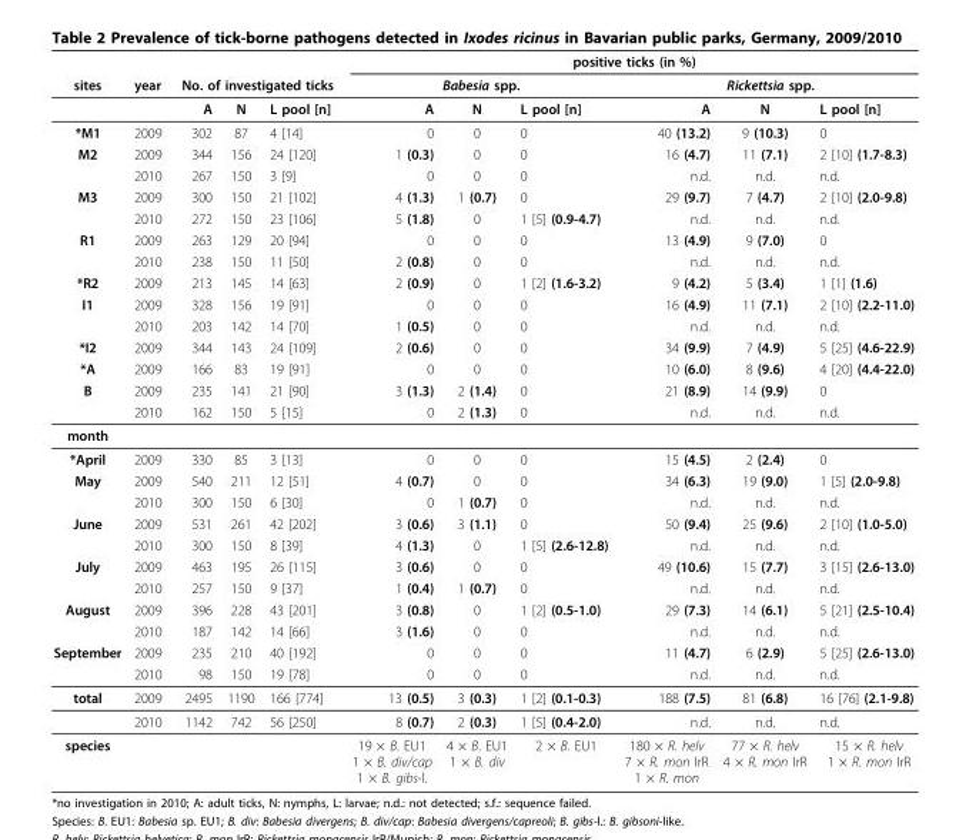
<table><thead><tr><td rowspan="3">sites</td><td rowspan="3">year</td><td></td><td></td><td></td><td colspan="6">positive ticks (in %)</td></tr><tr><td colspan="3">No. of investigated ticks</td><td colspan="3">Babesia spp.</td><td colspan="3">Rickettsia spp.</td></tr><tr><td>A</td><td>N</td><td>L pool [n]</td><td>A</td><td>N</td><td>L pool [n]</td><td>A</td><td>N</td><td>L pool [n]</td></tr></thead><tbody><tr><td>*M1</td><td>2009</td><td>302</td><td>87</td><td>4 [14]</td><td>0</td><td>0</td><td>0</td><td>40 (13.2)</td><td>9 (10.3)</td><td>0</td></tr><tr><td rowspan="2">M2</td><td>2009</td><td>344</td><td>156</td><td>24 [120]</td><td>1 (0.3)</td><td>0</td><td>0</td><td>16 (4.7)</td><td>11 (7.1)</td><td>2 [10] (1.7-8.3)</td></tr><tr><td>2010</td><td>267</td><td>150</td><td>3 [9]</td><td>0</td><td>0</td><td>0</td><td>n.d.</td><td>n.d.</td><td>n.d.</td></tr><tr><td rowspan="2">M3</td><td>2009</td><td>300</td><td>150</td><td>21 [102]</td><td>4 (1.3)</td><td>1 (0.7)</td><td>0</td><td>29 (9.7)</td><td>7 (4.7)</td><td>2 [10] (2.0-9.8)</td></tr><tr><td>2010</td><td>272</td><td>150</td><td>23 [106]</td><td>5 (1.8)</td><td>0</td><td>1 [5] (0.9-4.7)</td><td>n.d.</td><td>n.d.</td><td>n.d.</td></tr><tr><td rowspan="2">R1</td><td>2009</td><td>263</td><td>129</td><td>20 [94]</td><td>0</td><td>0</td><td>0</td><td>13 (4.9)</td><td>9 (7.0)</td><td>0</td></tr><tr><td>2010</td><td>238</td><td>150</td><td>11 [50]</td><td>2 (0.8)</td><td>0</td><td>0</td><td>n.d.</td><td>n.d.</td><td>n.d.</td></tr><tr><td>*R2</td><td>2009</td><td>213</td><td>145</td><td>14 [63]</td><td>2 (0.9)</td><td>0</td><td>1 [2] (1.6-3.2)</td><td>9 (4.2)</td><td>5 (3.4)</td><td>1 [1] (1.6)</td></tr><tr><td rowspan="2">I1</td><td>2009</td><td>328</td><td>156</td><td>19 [91]</td><td>0</td><td>0</td><td>0</td><td>16 (4.9)</td><td>11 (7.1)</td><td>2 [10] (2.2-11.0)</td></tr><tr><td>2010</td><td>203</td><td>142</td><td>14 [70]</td><td>1 (0.5)</td><td>0</td><td>0</td><td>n.d.</td><td>n.d.</td><td>n.d.</td></tr><tr><td>*I2</td><td>2009</td><td>344</td><td>143</td><td>24 [109]</td><td>2 (0.6)</td><td>0</td><td>0</td><td>34 (9.9)</td><td>7 (4.9)</td><td>5 [25] (4.6-22.9)</td></tr><tr><td>*A</td><td>2009</td><td>166</td><td>83</td><td>19 [91]</td><td>0</td><td>0</td><td>0</td><td>10 (6.0)</td><td>8 (9.6)</td><td>4 [20] (4.4-22.0)</td></tr><tr><td rowspan="2">B</td><td>2009</td><td>235</td><td>141</td><td>21 [90]</td><td>3 (1.3)</td><td>2 (1.4)</td><td>0</td><td>21 (8.9)</td><td>14 (9.9)</td><td>0</td></tr><tr><td>2010</td><td>162</td><td>150</td><td>5 [15]</td><td>0</td><td>2 (1.3)</td><td>0</td><td>n.d.</td><td>n.d.</td><td>n.d.</td></tr><tr><td colspan="11">month</td></tr><tr><td>*April</td><td>2009</td><td>330</td><td>85</td><td>3 [13]</td><td>0</td><td>0</td><td>0</td><td>15 (4.5)</td><td>2 (2.4)</td><td>0</td></tr><tr><td rowspan="2">May</td><td>2009</td><td>540</td><td>211</td><td>12 [51]</td><td>4 (0.7)</td><td>0</td><td>0</td><td>34 (6.3)</td><td>19 (9.0)</td><td>1 [5] (2.0-9.8)</td></tr><tr><td>2010</td><td>300</td><td>150</td><td>6 [30]</td><td>0</td><td>1 (0.7)</td><td>0</td><td>n.d.</td><td>n.d.</td><td>n.d.</td></tr><tr><td rowspan="2">June</td><td>2009</td><td>531</td><td>261</td><td>42 [202]</td><td>3 (0.6)</td><td>3 (1.1)</td><td>0</td><td>50 (9.4)</td><td>25 (9.6)</td><td>2 [10] (1.0-5.0)</td></tr><tr><td>2010</td><td>300</td><td>150</td><td>8 [39]</td><td>4 (1.3)</td><td>0</td><td>1 [5] (2.6-12.8)</td><td>n.d.</td><td>n.d.</td><td>n.d.</td></tr><tr><td rowspan="2">July</td><td>2009</td><td>463</td><td>195</td><td>26 [115]</td><td>3 (0.6)</td><td>0</td><td>0</td><td>49 (10.6)</td><td>15 (7.7)</td><td>3 [15] (2.6-13.0)</td></tr><tr><td>2010</td><td>257</td><td>150</td><td>9 [37]</td><td>1 (0.4)</td><td>1 (0.7)</td><td>0</td><td>n.d.</td><td>n.d.</td><td>n.d.</td></tr><tr><td rowspan="2">August</td><td>2009</td><td>396</td><td>228</td><td>43 [201]</td><td>3 (0.8)</td><td>0</td><td>1 [2] (0.5-1.0)</td><td>29 (7.3)</td><td>14 (6.1)</td><td>5 [21] (2.5-10.4)</td></tr><tr><td>2010</td><td>187</td><td>142</td><td>14 [66]</td><td>3 (1.6)</td><td>0</td><td>0</td><td>n.d.</td><td>n.d.</td><td>n.d.</td></tr><tr><td rowspan="2">September</td><td>2009</td><td>235</td><td>210</td><td>40 [192]</td><td>0</td><td>0</td><td>0</td><td>11 (4.7)</td><td>6 (2.9)</td><td>5 [25] (2.6-13.0)</td></tr><tr><td>2010</td><td>98</td><td>150</td><td>19 [78]</td><td>0</td><td>0</td><td>0</td><td>n.d.</td><td>n.d.</td><td>n.d.</td></tr><tr><td rowspan="2">total</td><td>2009</td><td>2495</td><td>1190</td><td>166 [774]</td><td>13 (0.5)</td><td>3 (0.3)</td><td>1 [2] (0.1-0.3)</td><td>188 (7.5)</td><td>81 (6.8)</td><td>16 [76] (2.1-9.8)</td></tr><tr><td>2010</td><td>1142</td><td>742</td><td>56 [250]</td><td>8 (0.7)</td><td>2 (0.3)</td><td>1 [5] (0.4-2.0)</td><td>n.d.</td><td>n.d.</td><td>n.d.</td></tr><tr><td>species</td><td></td><td></td><td></td><td></td><td>19 × B. EU1 1 × B. div/cap 1 × B. gibs-l.</td><td>4 × B. EU1 1 × B. div</td><td>2 × B. EU1</td><td>180 × R. helv 7 × R. mon IrR 1 × R. mon</td><td>77 × R. helv 4 × R. mon IrR</td><td>15 × R. helv 1 × R. mon IrR</td></tr></tbody></table>